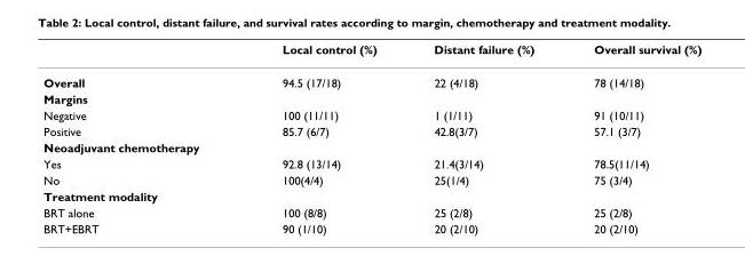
<table><thead><tr><td></td><td>Local control (%)</td><td>Distant failure (%)</td><td>Overall survival (%)</td></tr></thead><tbody><tr><td>Overall</td><td>94.5 (17/18)</td><td>22 (4/18)</td><td>78 (14/18)</td></tr><tr><td colspan="4">Margins</td></tr><tr><td>Negative</td><td>100 (11/11)</td><td>1 (1/11)</td><td>91 (10/11)</td></tr><tr><td>Positive</td><td>85.7 (6/7)</td><td>42.8(3/7)</td><td>57.1 (3/7)</td></tr><tr><td colspan="4">Neoadjuvant chemotherapy</td></tr><tr><td>Yes</td><td>92.8 (13/14)</td><td>21.4(3/14)</td><td>78.5(11/14)</td></tr><tr><td>No</td><td>100(4/4)</td><td>25(1/4)</td><td>75 (3/4)</td></tr><tr><td colspan="4">Treatment modality</td></tr><tr><td>BRT alone</td><td>100 (8/8)</td><td>25 (2/8)</td><td>25 (2/8)</td></tr><tr><td>BRT+EBRT</td><td>90 (1/10)</td><td>20 (2/10)</td><td>20 (2/10)</td></tr></tbody></table>